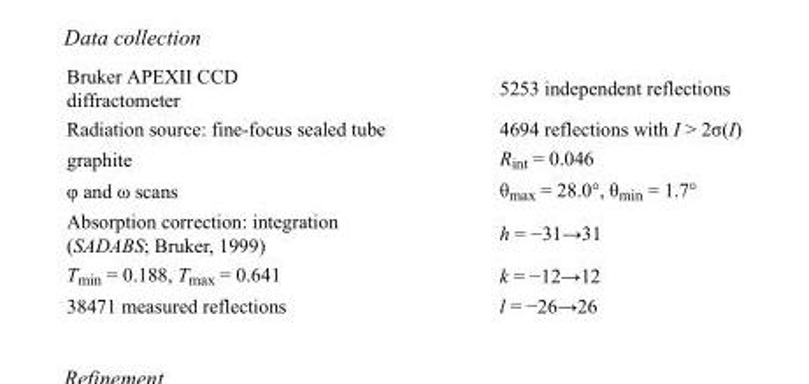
<table><tbody><tr><td>Bruker APEXII CCD diffractometer</td><td>5253 independent reflections</td></tr><tr><td>Radiation source: fine-focus sealed tube</td><td>4694 reflections with I &gt; 2σ(I)</td></tr><tr><td>graphite</td><td>R<sub>int</sub> = 0.046</td></tr><tr><td>φ and ω scans</td><td>θ<sub>max</sub> = 28.0°, θ<sub>min</sub> = 1.7°</td></tr><tr><td>Absorption correction: integration (SADABS; Bruker, 1999)</td><td>h = −31→31</td></tr><tr><td>T<sub>min</sub> = 0.188, T<sub>max</sub> = 0.641</td><td>k = −12→12</td></tr><tr><td>38471 measured reflections</td><td>l = −26→26</td></tr></tbody></table>